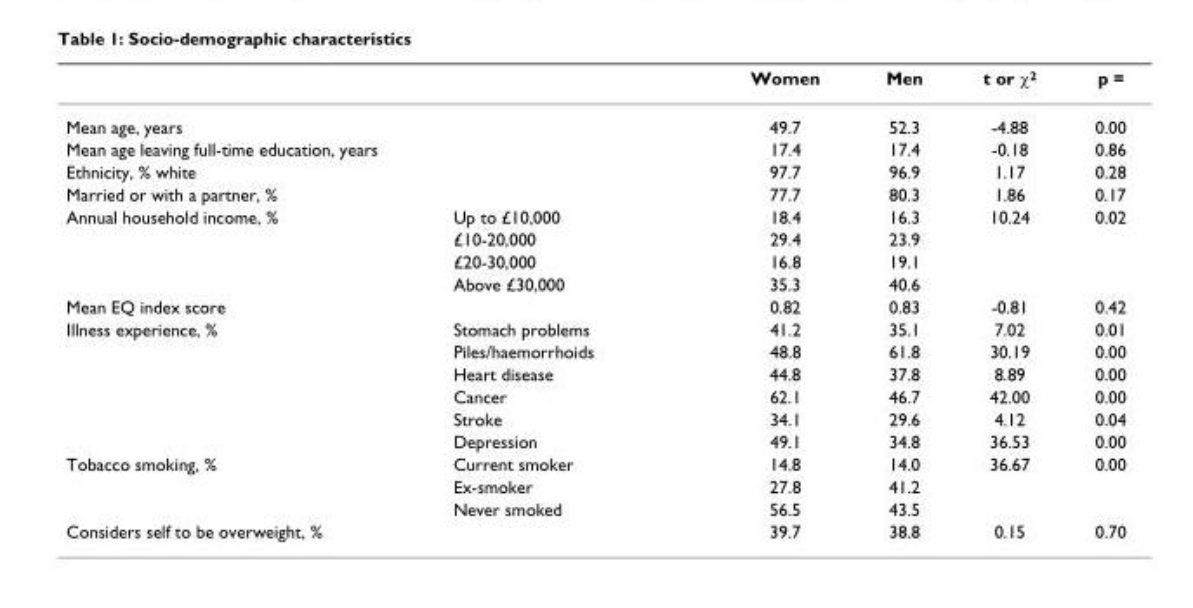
<table><thead><tr><td></td><td></td><td>Women</td><td>Men</td><td>t or χ<sup>2</sup></td><td>p =</td></tr></thead><tbody><tr><td>Mean age, years</td><td></td><td>49.7</td><td>52.3</td><td>-4.88</td><td>0.00</td></tr><tr><td colspan="2">Mean age leaving full-time education, years</td><td>17.4</td><td>17.4</td><td>-0.18</td><td>0.86</td></tr><tr><td>Ethnicity, % white</td><td></td><td>97.7</td><td>96.9</td><td>1.17</td><td>0.28</td></tr><tr><td colspan="2">Married or with a partner, %</td><td>77.7</td><td>80.3</td><td>1.86</td><td>0.17</td></tr><tr><td rowspan="4">Annual household income, %</td><td>Up to £10,000</td><td>18.4</td><td>16.3</td><td>10.24</td><td>0.02</td></tr><tr><td>£10-20,000</td><td>29.4</td><td>23.9</td><td></td><td></td></tr><tr><td>£20-30,000</td><td>16.8</td><td>19.1</td><td></td><td></td></tr><tr><td>Above £30,000</td><td>35.3</td><td>40.6</td><td></td><td></td></tr><tr><td>Mean EQ index score</td><td></td><td>0.82</td><td>0.83</td><td>-0.81</td><td>0.42</td></tr><tr><td rowspan="6">Illness experience, %</td><td>Stomach problems</td><td>41.2</td><td>35.1</td><td>7.02</td><td>0.01</td></tr><tr><td>Piles/haemorrhoids</td><td>48.8</td><td>61.8</td><td>30.19</td><td>0.00</td></tr><tr><td>Heart disease</td><td>44.8</td><td>37.8</td><td>8.89</td><td>0.00</td></tr><tr><td>Cancer</td><td>62.1</td><td>46.7</td><td>42.00</td><td>0.00</td></tr><tr><td>Stroke</td><td>34.1</td><td>29.6</td><td>4.12</td><td>0.04</td></tr><tr><td>Depression</td><td>49.1</td><td>34.8</td><td>36.53</td><td>0.00</td></tr><tr><td rowspan="3">Tobacco smoking, %</td><td>Current smoker</td><td>14.8</td><td>14.0</td><td>36.67</td><td>0.00</td></tr><tr><td>Ex-smoker</td><td>27.8</td><td>41.2</td><td></td><td></td></tr><tr><td>Never smoked</td><td>56.5</td><td>43.5</td><td></td><td></td></tr><tr><td colspan="2">Considers self to be overweight, %</td><td>39.7</td><td>38.8</td><td>0.15</td><td>0.70</td></tr></tbody></table>